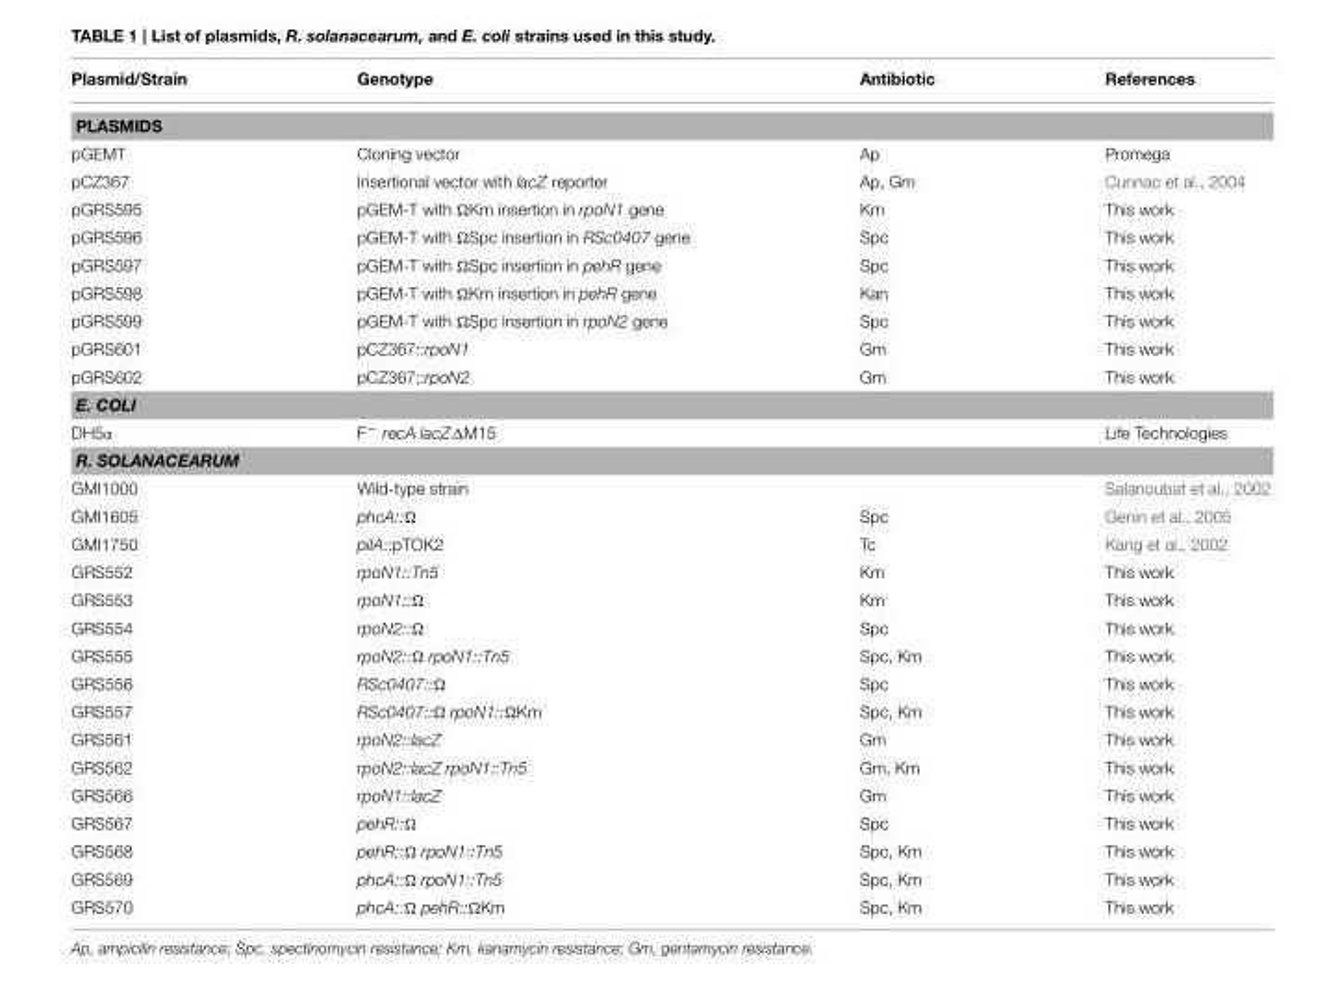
<table><thead><tr><td>Plasmid/Strain</td><td>Genotype</td><td>Antibiotic</td><td>References</td></tr></thead><tbody><tr><td colspan="4">PLASMIDS</td></tr><tr><td>pGEMT</td><td>Cloning vector</td><td>Ap</td><td>Promega</td></tr><tr><td>pCZ367</td><td>Insertional vector with lacZ reporter</td><td>Ap, Gm</td><td>Cunnac et al., 2004</td></tr><tr><td>pGRS595</td><td>pGEM-T with ΩKm insertion in rpoN1 gene</td><td>Km</td><td>This work</td></tr><tr><td>pGRS596</td><td>pGEM-T with ΩSpc insertion in RSc0407 gene</td><td>Spc</td><td>This work</td></tr><tr><td>pGRS597</td><td>pGEM-T with ΩSpc insertion in pehR gene</td><td>Spc</td><td>This work</td></tr><tr><td>pGRS598</td><td>pGEM-T with ΩKm insertion in pehR gene</td><td>Kan</td><td>This work</td></tr><tr><td>pGRS599</td><td>pGEM-T with ΩSpc insertion in rpoN2 gene</td><td>Spc</td><td>This work</td></tr><tr><td>pGRS601</td><td>pCZ367::rpoN1</td><td>Gm</td><td>This work</td></tr><tr><td>pGRS602</td><td>pCZ367::rpoN2</td><td>Gm</td><td>This work</td></tr><tr><td colspan="4">E. COLI</td></tr><tr><td>DH5α</td><td>F<sup>−</sup> recA lacZΔM15</td><td></td><td>Life Technologies</td></tr><tr><td colspan="4">R. SOLANACEARUM</td></tr><tr><td>GMI1000</td><td>Wild-type strain</td><td></td><td>Salanoubat et al., 2002</td></tr><tr><td>GMI1605</td><td>phcA::Ω</td><td>Spc</td><td>Genin et al., 2005</td></tr><tr><td>GMI1750</td><td>pilA::pTOK2</td><td>Tc</td><td>Kang et al., 2002</td></tr><tr><td>GRS552</td><td>rpoN1::Tn5</td><td>Km</td><td>This work</td></tr><tr><td>GRS553</td><td>rpoN1::Ω</td><td>Km</td><td>This work</td></tr><tr><td>GRS554</td><td>rpoN2::Ω</td><td>Spc</td><td>This work</td></tr><tr><td>GRS555</td><td>rpoN2::Ω rpoN1::Tn5</td><td>Spc, Km</td><td>This work</td></tr><tr><td>GRS556</td><td>RSc0407::Ω</td><td>Spc</td><td>This work</td></tr><tr><td>GRS557</td><td>RSc0407::Ω rpoN1::ΩKm</td><td>Spc, Km</td><td>This work</td></tr><tr><td>GRS561</td><td>rpoN2::lacZ</td><td>Gm</td><td>This work</td></tr><tr><td>GRS562</td><td>rpoN2::lacZ rpoN1::Tn5</td><td>Gm, Km</td><td>This work</td></tr><tr><td>GRS566</td><td>rpoN1::lacZ</td><td>Gm</td><td>This work</td></tr><tr><td>GRS567</td><td>pehR::Ω</td><td>Spc</td><td>This work</td></tr><tr><td>GRS568</td><td>pehR::Ω rpoN1::Tn5</td><td>Spc, Km</td><td>This work</td></tr><tr><td>GRS569</td><td>phcA::Ω rpoN1::Tn5</td><td>Spc, Km</td><td>This work</td></tr><tr><td>GRS570</td><td>phcA::Ω pehR::ΩKm</td><td>Spc, Km</td><td>This work</td></tr></tbody></table>